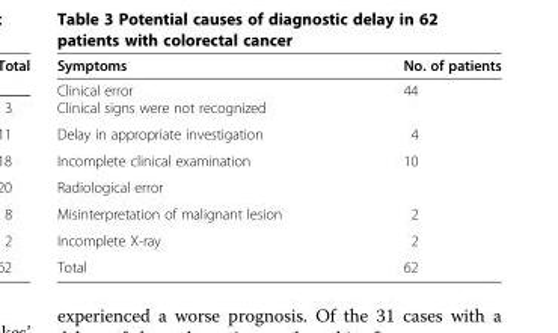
<table><thead><tr><td>Symptoms</td><td>No. of patients</td></tr></thead><tbody><tr><td>Clinical error Clinical signs were not recognized</td><td>44</td></tr><tr><td>Delay in appropriate investigation</td><td>4</td></tr><tr><td>Incomplete clinical examination</td><td>10</td></tr><tr><td colspan="2">Radiological error</td></tr><tr><td>Misinterpretation of malignant lesion</td><td>2</td></tr><tr><td>Incomplete X-ray</td><td>2</td></tr><tr><td>Total</td><td>62</td></tr></tbody></table>